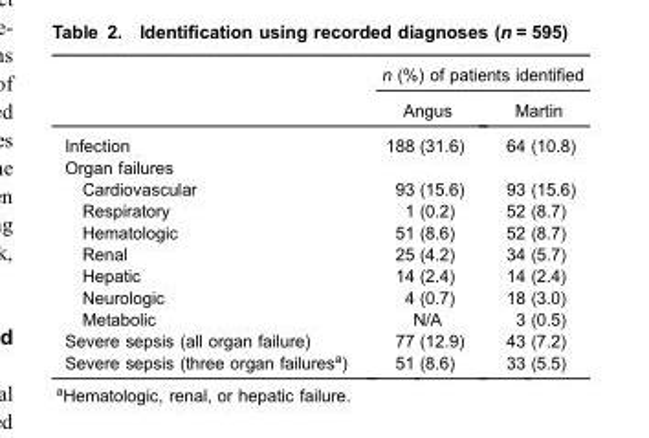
<table><thead><tr><td rowspan="3">Infection</td><td colspan="4">n (%) of patients identified</td></tr><tr><td colspan="2">Angus</td><td colspan="2">Martin</td></tr><tr><td>188</td><td>(31.6)</td><td>64</td><td>(10.8)</td></tr></thead><tbody><tr><td colspan="5">Organ failures</td></tr><tr><td>Cardiovascular</td><td>93</td><td>(15.6)</td><td>93</td><td>(15.6)</td></tr><tr><td>Respiratory</td><td>1</td><td>(0.2)</td><td>52</td><td>(8.7)</td></tr><tr><td>Hematologic</td><td>51</td><td>(8.6)</td><td>52</td><td>(8.7)</td></tr><tr><td>Renal</td><td>25</td><td>(4.2)</td><td>34</td><td>(5.7)</td></tr><tr><td>Hepatic</td><td>14</td><td>(2.4)</td><td>14</td><td>(2.4)</td></tr><tr><td>Neurologic</td><td>4</td><td>(0.7)</td><td>18</td><td>(3.0)</td></tr><tr><td>Metabolic</td><td colspan="2">N/A</td><td>3</td><td>(0.5)</td></tr><tr><td>Severe sepsis (all organ failure)</td><td>77</td><td>(12.9)</td><td>43</td><td>(7.2)</td></tr><tr><td>Severe sepsis (three organ failures<sup>a</sup>)</td><td>51</td><td>(8.6)</td><td>33</td><td>(5.5)</td></tr></tbody></table>